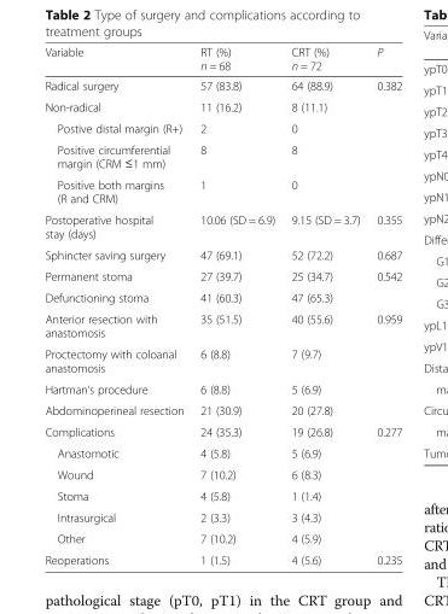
<table><thead><tr><td>Variable</td><td>RT (%) n = 68</td><td>CRT (%) n = 72</td><td>P</td></tr></thead><tbody><tr><td>Radical surgery</td><td>57 (83.8)</td><td>64 (88.9)</td><td>0.382</td></tr><tr><td>Non-radical</td><td>11 (16.2)</td><td>8 (11.1)</td><td></td></tr><tr><td>Postive distal margin (R+)</td><td>2</td><td>0</td><td></td></tr><tr><td>Positive circumferential margin (CRM ≤1 mm)</td><td>8</td><td>8</td><td></td></tr><tr><td>Positive both margins (R and CRM)</td><td>1</td><td>0</td><td></td></tr><tr><td>Postoperative hospital stay (days)</td><td>10.06 (SD = 6.9)</td><td>9.15 (SD = 3.7)</td><td>0.355</td></tr><tr><td>Sphincter saving surgery</td><td>47 (69.1)</td><td>52 (72.2)</td><td>0.687</td></tr><tr><td>Permanent stoma</td><td>27 (39.7)</td><td>25 (34.7)</td><td>0.542</td></tr><tr><td>Defunctioning stoma</td><td>41 (60.3)</td><td>47 (65.3)</td><td></td></tr><tr><td>Anterior resection with anastomosis</td><td>35 (51.5)</td><td>40 (55.6)</td><td>0.959</td></tr><tr><td>Proctectomy with coloanal anastomosis</td><td>6 (8.8)</td><td>7 (9.7)</td><td></td></tr><tr><td>Hartman‘s procedure</td><td>6 (8.8)</td><td>5 (6.9)</td><td></td></tr><tr><td>Abdominoperineal resection</td><td>21 (30.9)</td><td>20 (27.8)</td><td></td></tr><tr><td>Complications</td><td>24 (35.3)</td><td>19 (26.8)</td><td>0.277</td></tr><tr><td>Anastomotic</td><td>4 (5.8)</td><td>5 (6.9)</td><td></td></tr><tr><td>Wound</td><td>7 (10.2)</td><td>6 (8.3)</td><td></td></tr><tr><td>Stoma</td><td>4 (5.8)</td><td>1 (1.4)</td><td></td></tr><tr><td>Intrasurgical</td><td>2 (3.3)</td><td>3 (4.3)</td><td></td></tr><tr><td>Other</td><td>7 (10.2)</td><td>4 (5.9)</td><td></td></tr><tr><td>Reoperations</td><td>1 (1.5)</td><td>4 (5.6)</td><td>0.235</td></tr></tbody></table>